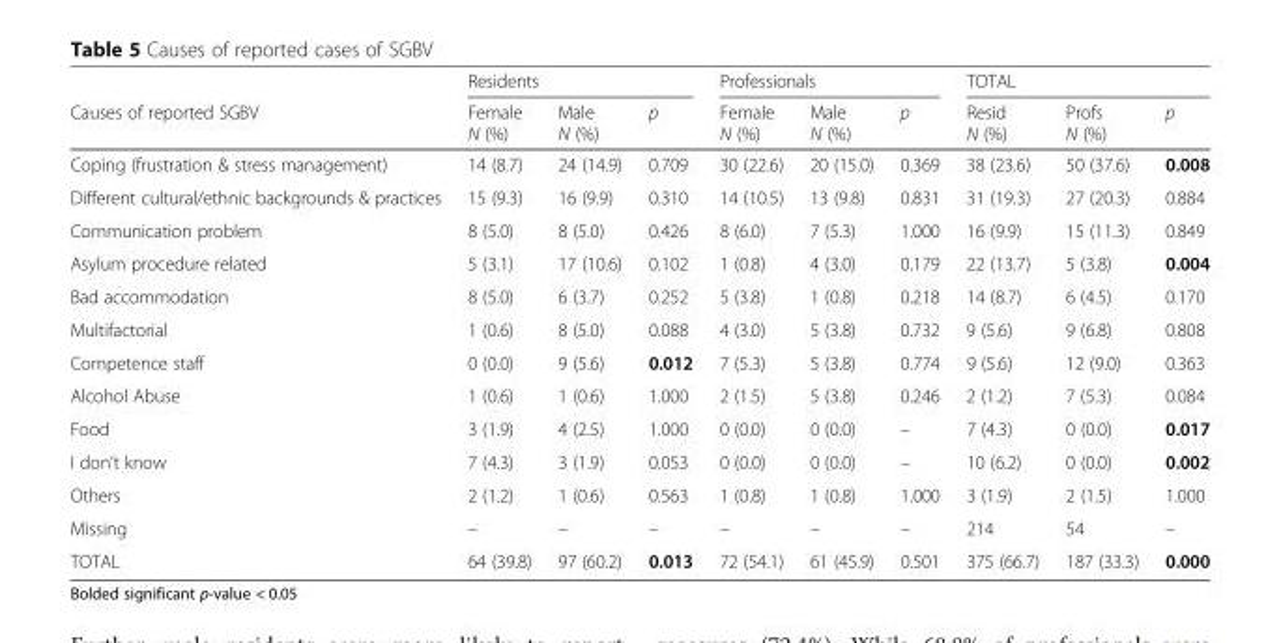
<table><thead><tr><td rowspan="2">Causes of reported SGBV</td><td colspan="3">Residents</td><td colspan="3">Professionals</td><td colspan="3">TOTAL</td></tr><tr><td>Female N (%)</td><td>Male N (%)</td><td>p</td><td>Female N (%)</td><td>Male N (%)</td><td>p</td><td>Resid N (%)</td><td>Profs N (%)</td><td>p</td></tr></thead><tbody><tr><td>Coping (frustration &amp; stress management)</td><td>14 (8.7)</td><td>24 (14.9)</td><td>0.709</td><td>30 (22.6)</td><td>20 (15.0)</td><td>0.369</td><td>38 (23.6)</td><td>50 (37.6)</td><td>0.008</td></tr><tr><td>Different cultural/ethnic backgrounds &amp; practices</td><td>15 (9.3)</td><td>16 (9.9)</td><td>0.310</td><td>14 (10.5)</td><td>13 (9.8)</td><td>0.831</td><td>31 (19.3)</td><td>27 (20.3)</td><td>0.884</td></tr><tr><td>Communication problem</td><td>8 (5.0)</td><td>8 (5.0)</td><td>0.426</td><td>8 (6.0)</td><td>7 (5.3)</td><td>1.000</td><td>16 (9.9)</td><td>15 (11.3)</td><td>0.849</td></tr><tr><td>Asylum procedure related</td><td>5 (3.1)</td><td>17 (10.6)</td><td>0.102</td><td>1 (0.8)</td><td>4 (3.0)</td><td>0.179</td><td>22 (13.7)</td><td>5 (3.8)</td><td>0.004</td></tr><tr><td>Bad accommodation</td><td>8 (5.0)</td><td>6 (3.7)</td><td>0.252</td><td>5 (3.8)</td><td>1 (0.8)</td><td>0.218</td><td>14 (8.7)</td><td>6 (4.5)</td><td>0.170</td></tr><tr><td>Multifactorial</td><td>1 (0.6)</td><td>8 (5.0)</td><td>0.088</td><td>4 (3.0)</td><td>5 (3.8)</td><td>0.732</td><td>9 (5.6)</td><td>9 (6.8)</td><td>0.808</td></tr><tr><td>Competence staff</td><td>0 (0.0)</td><td>9 (5.6)</td><td>0.012</td><td>7 (5.3)</td><td>5 (3.8)</td><td>0.774</td><td>9 (5.6)</td><td>12 (9.0)</td><td>0.363</td></tr><tr><td>Alcohol Abuse</td><td>1 (0.6)</td><td>1 (0.6)</td><td>1.000</td><td>2 (1.5)</td><td>5 (3.8)</td><td>0.246</td><td>2 (1.2)</td><td>7 (5.3)</td><td>0.084</td></tr><tr><td>Food</td><td>3 (1.9)</td><td>4 (2.5)</td><td>1.000</td><td>0 (0.0)</td><td>0 (0.0)</td><td>–</td><td>7 (4.3)</td><td>0 (0.0)</td><td>0.017</td></tr><tr><td>I don’t know</td><td>7 (4.3)</td><td>3 (1.9)</td><td>0.053</td><td>0 (0.0)</td><td>0 (0.0)</td><td>–</td><td>10 (6.2)</td><td>0 (0.0)</td><td>0.002</td></tr><tr><td>Others</td><td>2 (1.2)</td><td>1 (0.6)</td><td>0.563</td><td>1 (0.8)</td><td>1 (0.8)</td><td>1.000</td><td>3 (1.9)</td><td>2 (1.5)</td><td>1.000</td></tr><tr><td>Missing</td><td>–</td><td>–</td><td>–</td><td>–</td><td>–</td><td>–</td><td>214</td><td>54</td><td>–</td></tr><tr><td>TOTAL</td><td>64 (39.8)</td><td>97 (60.2)</td><td>0.013</td><td>72 (54.1)</td><td>61 (45.9)</td><td>0.501</td><td>375 (66.7)</td><td>187 (33.3)</td><td>0.000</td></tr></tbody></table>